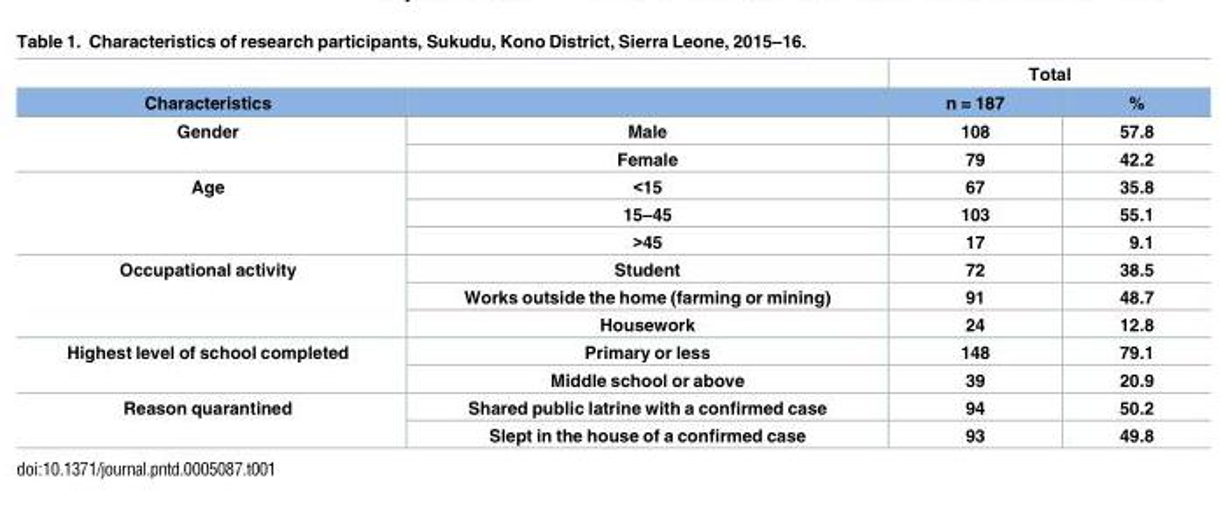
<table><thead><tr><td rowspan="2">Characteristics</td><td rowspan="2"></td><td colspan="2">Total</td></tr><tr><td>n = 187</td><td>%</td></tr></thead><tbody><tr><td rowspan="2">Gender</td><td>Male</td><td>108</td><td>57.8</td></tr><tr><td>Female</td><td>79</td><td>42.2</td></tr><tr><td rowspan="3">Age</td><td>&lt;15</td><td>67</td><td>35.8</td></tr><tr><td>15–45</td><td>103</td><td>55.1</td></tr><tr><td>&gt;45</td><td>17</td><td>9.1</td></tr><tr><td rowspan="3">Occupational activity</td><td>Student</td><td>72</td><td>38.5</td></tr><tr><td>Works outside the home (farming or mining)</td><td>91</td><td>48.7</td></tr><tr><td>Housework</td><td>24</td><td>12.8</td></tr><tr><td rowspan="2">Highest level of school completed</td><td>Primary or less</td><td>148</td><td>79.1</td></tr><tr><td>Middle school or above</td><td>39</td><td>20.9</td></tr><tr><td rowspan="2">Reason quarantined</td><td>Shared public latrine with a confirmed case</td><td>94</td><td>50.2</td></tr><tr><td>Slept in the house of a confirmed case</td><td>93</td><td>49.8</td></tr></tbody></table>